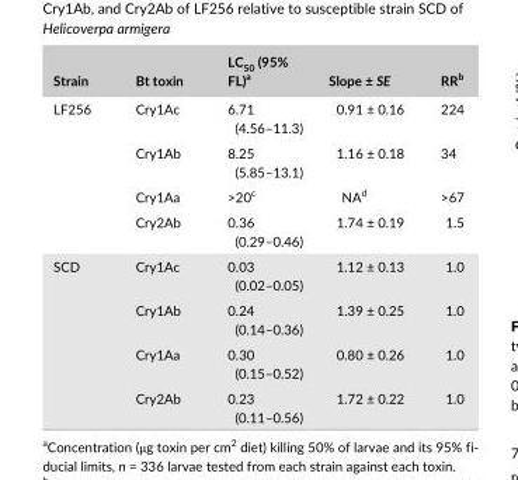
<table><thead><tr><td>Strain</td><td>Bt toxin</td><td>LC<sub>50</sub> (95% FL)<sup>a</sup></td><td>Slope ± SE</td><td>RR<sup>b</sup></td></tr></thead><tbody><tr><td rowspan="4">LF256</td><td>Cry1Ac</td><td>6.71 (4.56–11.3)</td><td>0.91 ± 0.16</td><td>224</td></tr><tr><td>Cry1Ab</td><td>8.25 (5.85–13.1)</td><td>1.16 ± 0.18</td><td>34</td></tr><tr><td>Cry1Aa</td><td>&gt;20<sup>c</sup></td><td>NA<sup>d</sup></td><td>&gt;67</td></tr><tr><td>Cry2Ab</td><td>0.36 (0.29–0.46)</td><td>1.74 ± 0.19</td><td>1.5</td></tr><tr><td rowspan="4">SCD</td><td>Cry1Ac</td><td>0.03 (0.02–0.05)</td><td>1.12 ± 0.13</td><td>1.0</td></tr><tr><td>Cry1Ab</td><td>0.24 (0.14–0.36)</td><td>1.39 ± 0.25</td><td>1.0</td></tr><tr><td>Cry1Aa</td><td>0.30 (0.15–0.52)</td><td>0.80 ± 0.26</td><td>1.0</td></tr><tr><td>Cry2Ab</td><td>0.23 (0.11–0.56)</td><td>1.72 ± 0.22</td><td>1.0</td></tr></tbody></table>